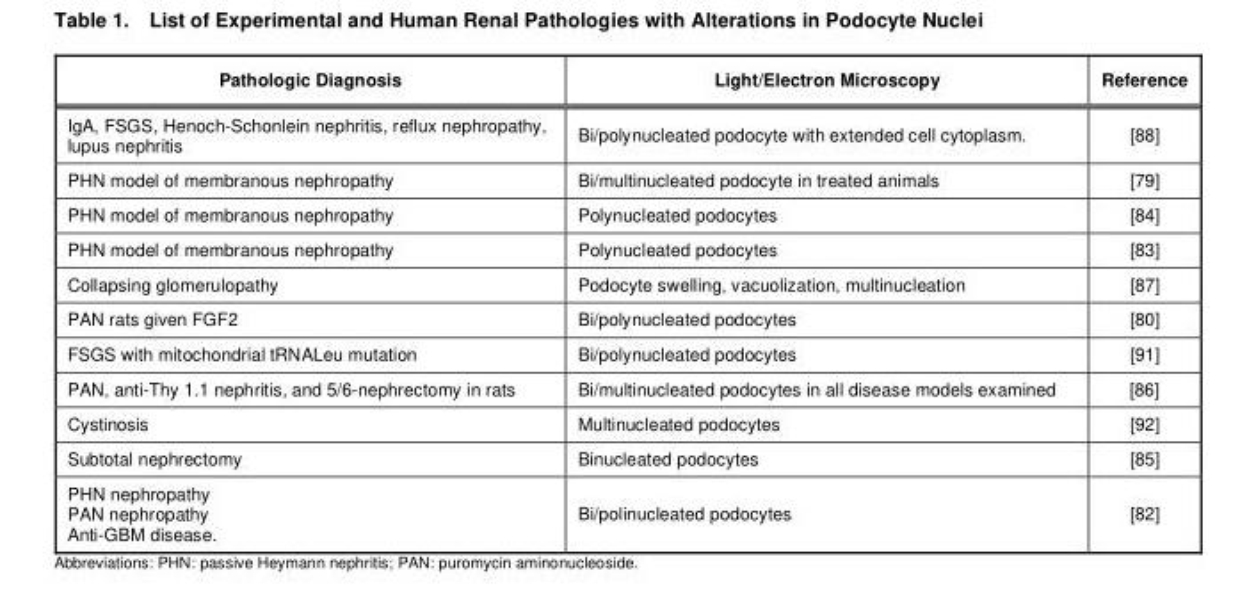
<table><thead><tr><td>Pathologic Diagnosis</td><td>Light/Electron Microscopy</td><td>Reference</td></tr></thead><tbody><tr><td>IgA, FSGS, Henoch-Schonlein nephritis, reflux nephropathy, lupus nephritis</td><td>Bi/polynucleated podocyte with extended cell cytoplasm.</td><td>[88]</td></tr><tr><td>PHN model of membranous nephropathy</td><td>Bi/multinucleated podocyte in treated animals</td><td>[79]</td></tr><tr><td>PHN model of membranous nephropathy</td><td>Polynucleated podocytes</td><td>[84]</td></tr><tr><td>PHN model of membranous nephropathy</td><td>Polynucleated podocytes</td><td>[83]</td></tr><tr><td>Collapsing glomerulopathy</td><td>Podocyte swelling, vacuolization, multinucleation</td><td>[87]</td></tr><tr><td>PAN rats given FGF2</td><td>Bi/polynucleated podocytes</td><td>[80]</td></tr><tr><td>FSGS with mitochondrial tRNALeu mutation</td><td>Bi/polynucleated podocytes</td><td>[91]</td></tr><tr><td>PAN, anti-Thy 1.1 nephritis, and 5/6-nephrectomy in rats</td><td>Bi/multinucleated podocytes in all disease models examined</td><td>[86]</td></tr><tr><td>Cystinosis</td><td>Multinucleated podocytes</td><td>[92]</td></tr><tr><td>Subtotal nephrectomy</td><td>Binucleated podocytes</td><td>[85]</td></tr><tr><td>PHN nephropathy PAN nephropathy Anti-GBM disease.</td><td>Bi/polinucleated podocytes</td><td>[82]</td></tr></tbody></table>